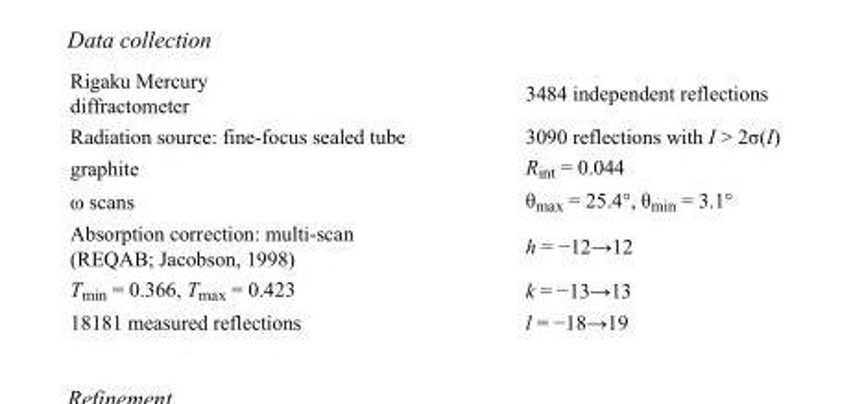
<table><tbody><tr><td>Rigaku Mercury diffractometer</td><td>3484 independent reflections</td></tr><tr><td>Radiation source: fine-focus sealed tube</td><td>3090 reflections with I &gt; 2σ(I)</td></tr><tr><td>graphite</td><td>R<sub>int</sub> = 0.044</td></tr><tr><td>ω scans</td><td>θ<sub>max</sub> = 25.4°, θ<sub>min</sub> = 3.1°</td></tr><tr><td>Absorption correction: multi-scan (REQAB; Jacobson, 1998)</td><td>h = −12→12</td></tr><tr><td>T<sub>min</sub> = 0.366, T<sub>max</sub> = 0.423</td><td>k = −13→13</td></tr><tr><td>18181 measured reflections</td><td>l = −18→19</td></tr></tbody></table>